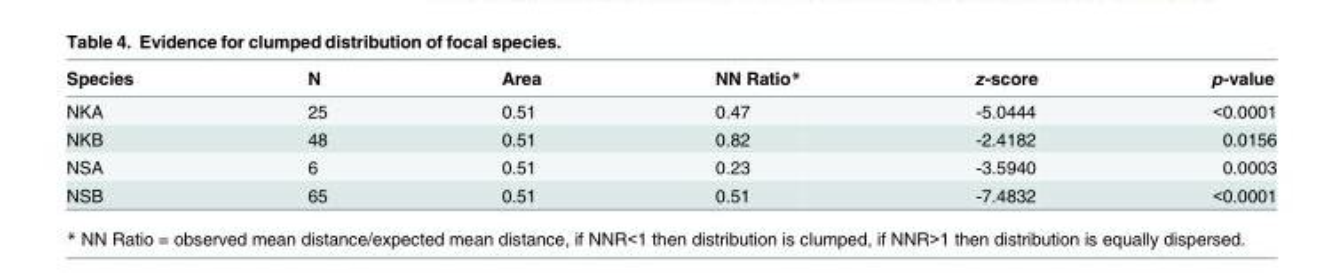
<table><thead><tr><td>Species</td><td>N</td><td>Area</td><td>NN Ratio*</td><td>z-score</td><td>p-value</td></tr></thead><tbody><tr><td>NKA</td><td>25</td><td>0.51</td><td>0.47</td><td>-5.0444</td><td>&lt;0.0001</td></tr><tr><td>NKB</td><td>48</td><td>0.51</td><td>0.82</td><td>-2.4182</td><td>0.0156</td></tr><tr><td>NSA</td><td>6</td><td>0.51</td><td>0.23</td><td>-3.5940</td><td>0.0003</td></tr><tr><td>NSB</td><td>65</td><td>0.51</td><td>0.51</td><td>-7.4832</td><td>&lt;0.0001</td></tr></tbody></table>